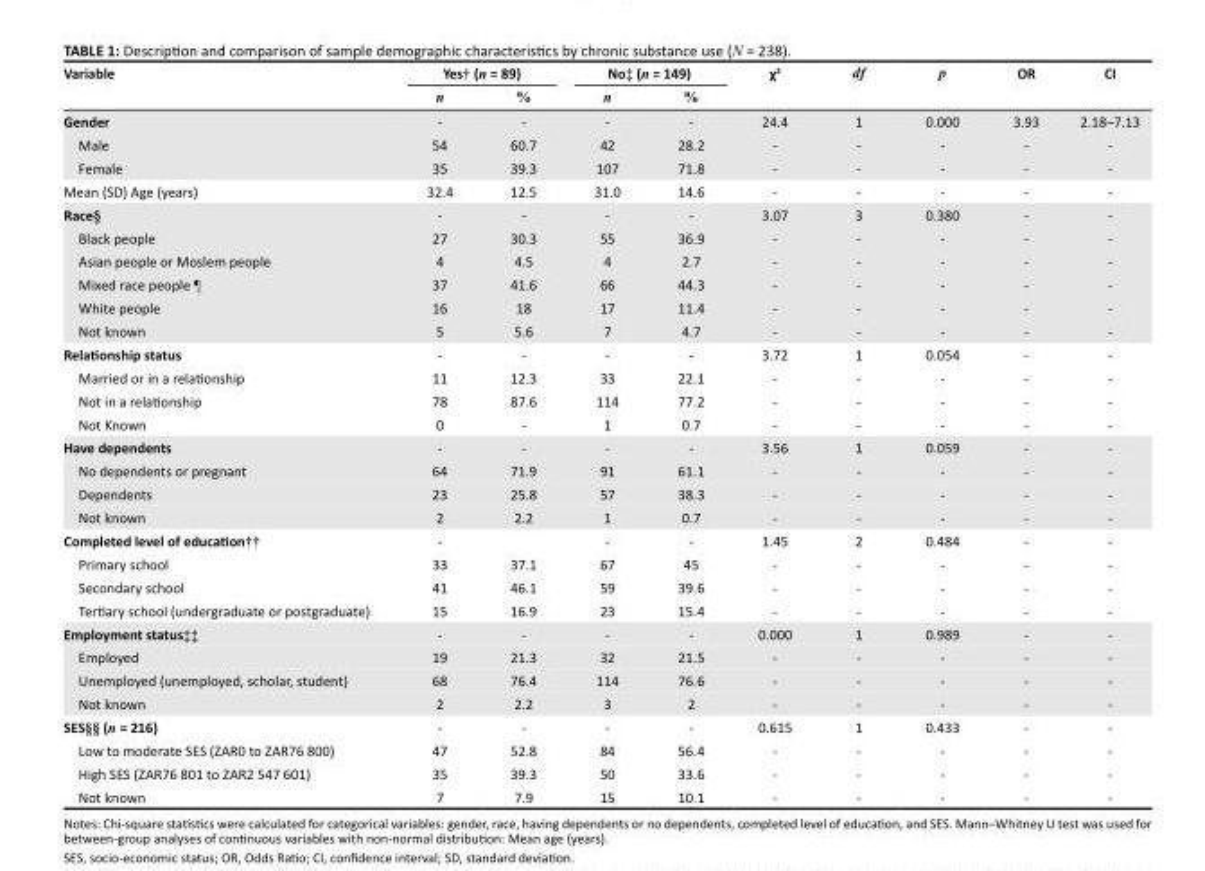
<table><thead><tr><td rowspan="2">Variable</td><td colspan="2">Yes† (n = 89)</td><td colspan="2">No‡ (n = 149)</td><td rowspan="2">χ<sup>2</sup></td><td rowspan="2">df</td><td rowspan="2">p</td><td rowspan="2">OR</td><td rowspan="2">CI</td></tr><tr><td>n</td><td>%</td><td>n</td><td>%</td></tr></thead><tbody><tr><td>Gender</td><td>-</td><td>-</td><td>-</td><td>-</td><td>24.4</td><td>1</td><td>0.000</td><td>3.93</td><td>2.18–7.13</td></tr><tr><td>Male</td><td>54</td><td>60.7</td><td>42</td><td>28.2</td><td>-</td><td>-</td><td>-</td><td>-</td><td>-</td></tr><tr><td>Female</td><td>35</td><td>39.3</td><td>107</td><td>71.8</td><td>-</td><td>-</td><td>-</td><td>-</td><td>-</td></tr><tr><td>Mean (SD) Age (years)</td><td>32.4</td><td>12.5</td><td>31.0</td><td>14.6</td><td>-</td><td>-</td><td>-</td><td>-</td><td>-</td></tr><tr><td>Race§</td><td>-</td><td>-</td><td>-</td><td>-</td><td>3.07</td><td>3</td><td>0.380</td><td>-</td><td>-</td></tr><tr><td>Black people</td><td>27</td><td>30.3</td><td>55</td><td>36.9</td><td>-</td><td>-</td><td>-</td><td>-</td><td>-</td></tr><tr><td>Asian people or Moslem people</td><td>4</td><td>4.5</td><td>4</td><td>2.7</td><td>-</td><td>-</td><td>-</td><td>-</td><td>-</td></tr><tr><td>Mixed race people ¶</td><td>37</td><td>41.6</td><td>66</td><td>44.3</td><td>-</td><td>-</td><td>-</td><td>-</td><td>-</td></tr><tr><td>White people</td><td>16</td><td>18</td><td>17</td><td>11.4</td><td>-</td><td>-</td><td>-</td><td>-</td><td>-</td></tr><tr><td>Not known</td><td>5</td><td>5.6</td><td>7</td><td>4.7</td><td>-</td><td>-</td><td>-</td><td>-</td><td>-</td></tr><tr><td>Relationship status</td><td>-</td><td>-</td><td>-</td><td>-</td><td>3.72</td><td>1</td><td>0.054</td><td>-</td><td>-</td></tr><tr><td>Married or in a relationship</td><td>11</td><td>12.3</td><td>33</td><td>22.1</td><td>-</td><td>-</td><td>-</td><td>-</td><td>-</td></tr><tr><td>Not in a relationship</td><td>78</td><td>87.6</td><td>114</td><td>77.2</td><td>-</td><td>-</td><td>-</td><td>-</td><td>-</td></tr><tr><td>Not Known</td><td>0</td><td>-</td><td>1</td><td>0.7</td><td>-</td><td>-</td><td>-</td><td>-</td><td>-</td></tr><tr><td>Have dependents</td><td>-</td><td>-</td><td>-</td><td>-</td><td>3.56</td><td>1</td><td>0.059</td><td>-</td><td>-</td></tr><tr><td>No dependents or pregnant</td><td>64</td><td>71.9</td><td>91</td><td>61.1</td><td>-</td><td>-</td><td>-</td><td>-</td><td>-</td></tr><tr><td>Dependents</td><td>23</td><td>25.8</td><td>57</td><td>38.3</td><td>-</td><td>-</td><td>-</td><td>-</td><td>-</td></tr><tr><td>Not known</td><td>2</td><td>2.2</td><td>1</td><td>0.7</td><td>-</td><td>-</td><td>-</td><td>-</td><td>-</td></tr><tr><td>Completed level of education††</td><td>-</td><td></td><td>-</td><td>-</td><td>1.45</td><td>2</td><td>0.484</td><td>-</td><td>-</td></tr><tr><td>Primary school</td><td>33</td><td>37.1</td><td>67</td><td>45</td><td>-</td><td>-</td><td>-</td><td>-</td><td>-</td></tr><tr><td>Secondary school</td><td>41</td><td>46.1</td><td>59</td><td>39.6</td><td>-</td><td>-</td><td>-</td><td>-</td><td>-</td></tr><tr><td>Tertiary school (undergraduate or postgraduate)</td><td>15</td><td>16.9</td><td>23</td><td>15.4</td><td>-</td><td>-</td><td>-</td><td>-</td><td>-</td></tr><tr><td>Employment status‡‡</td><td>-</td><td>-</td><td>-</td><td>-</td><td>0.000</td><td>1</td><td>0.989</td><td>-</td><td>-</td></tr><tr><td>Employed</td><td>19</td><td>21.3</td><td>32</td><td>21.5</td><td>-</td><td>-</td><td>-</td><td>-</td><td>-</td></tr><tr><td>Unemployed (unemployed, scholar, student)</td><td>68</td><td>76.4</td><td>114</td><td>76.6</td><td>-</td><td>-</td><td>-</td><td>-</td><td>-</td></tr><tr><td>Not known</td><td>2</td><td>2.2</td><td>3</td><td>2</td><td>-</td><td>-</td><td>-</td><td>-</td><td>-</td></tr><tr><td>SES§§ (n = 216)</td><td>-</td><td>-</td><td>-</td><td>-</td><td>0.615</td><td>1</td><td>0.433</td><td>-</td><td>-</td></tr><tr><td>Low to moderate SES (ZAR0 to ZAR76 800)</td><td>47</td><td>52.8</td><td>84</td><td>56.4</td><td>-</td><td>-</td><td>-</td><td>-</td><td>-</td></tr><tr><td>High SES (ZAR76 801 to ZAR2 547 601)</td><td>35</td><td>39.3</td><td>50</td><td>33.6</td><td>-</td><td>-</td><td>-</td><td>-</td><td>-</td></tr><tr><td>Not known</td><td>7</td><td>7.9</td><td>15</td><td>10.1</td><td>-</td><td>-</td><td>-</td><td>-</td><td>-</td></tr></tbody></table>